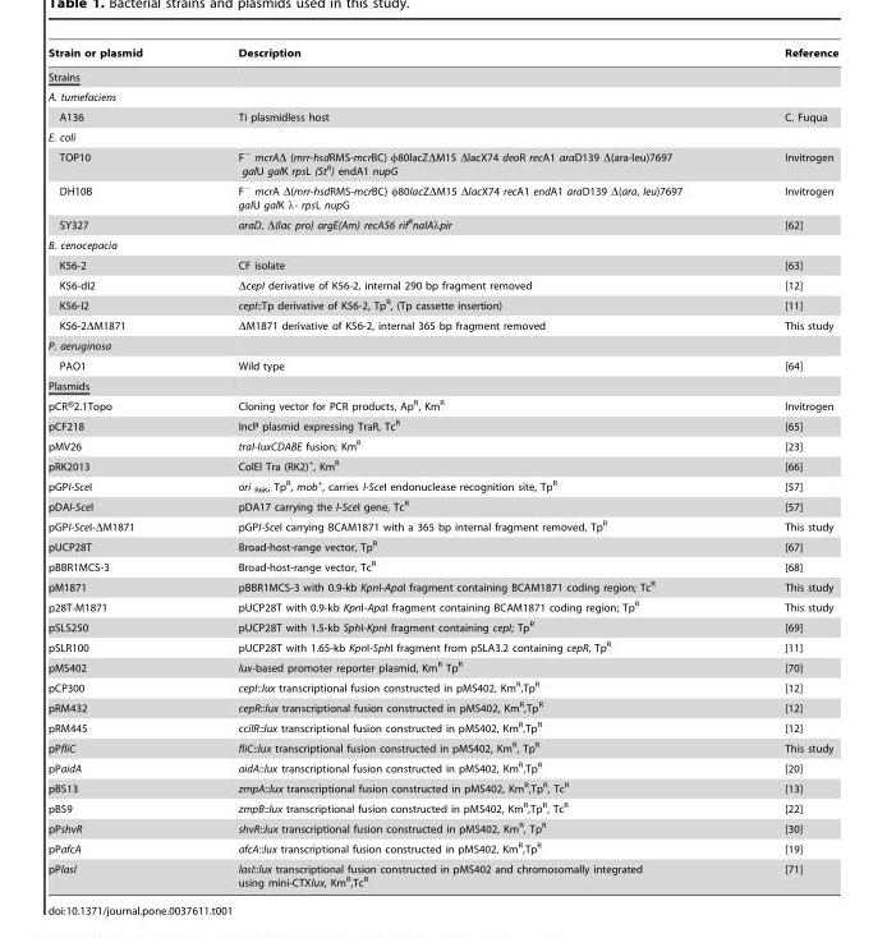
<table><thead><tr><td>Strain or plasmid</td><td>Description</td><td>Reference</td></tr></thead><tbody><tr><td colspan="3">Strains</td></tr><tr><td colspan="3">A. tumefaciens</td></tr><tr><td>A136</td><td>Ti plasmidless host</td><td>C. Fuqua</td></tr><tr><td colspan="3">E. coli</td></tr><tr><td>TOP10</td><td>F<sup>−</sup> mcrAΔ (mrr-hsdRMS-mcrBC) φ80lacZΔM15 ΔlacX74 deoR recA1 araD139 Δ(ara-leu)7697 galU galK rpsL (St<sup>R</sup>) endA1 nupG</td><td>Invitrogen</td></tr><tr><td>DH10B</td><td>F<sup>−</sup> mcrA Δ(mrr-hsdRMS-mcrBC) φ80lacZΔM15 ΔlacX74 recA1 endA1 araD139 Δ(ara, leu)7697 galU galK λ- rpsL nupG</td><td>Invitrogen</td></tr><tr><td>SY327</td><td>araD, Δ(lac pro) argE(Am) recA56 rif<sup>R</sup>nalAλpir</td><td>[62]</td></tr><tr><td colspan="3">B. cenocepacia</td></tr><tr><td>K56-2</td><td>CF isolate</td><td>[63]</td></tr><tr><td>K56-dI2</td><td>ΔcepI derivative of K56-2, internal 290 bp fragment removed</td><td>[12]</td></tr><tr><td>K56-I2</td><td>cepI::Tp derivative of K56-2, Tp<sup>R</sup>, (Tp cassette insertion)</td><td>[11]</td></tr><tr><td>K56-2ΔM1871</td><td>ΔM1871 derivative of K56-2, internal 365 bp fragment removed</td><td>This study</td></tr><tr><td colspan="3">P. aeruginosa</td></tr><tr><td>PAO1</td><td>Wild type</td><td>[64]</td></tr><tr><td colspan="3">Plasmids</td></tr><tr><td>pCR®2.1Topo</td><td>Cloning vector for PCR products, Ap<sup>R</sup>, Km<sup>R</sup></td><td>Invitrogen</td></tr><tr><td>pCF218</td><td>IncP plasmid expressing TraR, Tc<sup>R</sup></td><td>[65]</td></tr><tr><td>pMV26</td><td>traI-luxCDABE fusion; Km<sup>R</sup></td><td>[23]</td></tr><tr><td>pRK2013</td><td>ColEl Tra (RK2)<sup>+</sup>, Km<sup>R</sup></td><td>[66]</td></tr><tr><td>pGPI-SceI</td><td>ori <sub>R6K</sub>, Tp<sup>R</sup>, mob<sup>+</sup>, carries I-SceI endonuclease recognition site, Tp<sup>R</sup></td><td>[57]</td></tr><tr><td>pDAI-SceI</td><td>pDA17 carrying the I-SceI gene, Tc<sup>R</sup></td><td>[57]</td></tr><tr><td>pGPI-SceI-ΔM1871</td><td>pGPI-SceI carrying BCAM1871 with a 365 bp internal fragment removed, Tp<sup>R</sup></td><td>This study</td></tr><tr><td>pUCP28T</td><td>Broad-host-range vector, Tp<sup>R</sup></td><td>[67]</td></tr><tr><td>pBBR1MCS-3</td><td>Broad-host-range vector, Tc<sup>R</sup></td><td>[68]</td></tr><tr><td>pM1871</td><td>pBBR1MCS-3 with 0.9-kb KpnI-ApaI fragment containing BCAM1871 coding region; Tc<sup>R</sup></td><td>This study</td></tr><tr><td>p28T-M1871</td><td>pUCP28T with 0.9-kb KpnI-ApaI fragment containing BCAM1871 coding region; Tp<sup>R</sup></td><td>This study</td></tr><tr><td>pSLS250</td><td>pUCP28T with 1.5-kb SphI-KpnI fragment containing cepI; Tp<sup>R</sup></td><td>[69]</td></tr><tr><td>pSLR100</td><td>pUCP28T with 1.65-kb KpnI-SphI fragment from pSLA3.2 containing cepR, Tp<sup>R</sup></td><td>[11]</td></tr><tr><td>pMS402</td><td>lux-based promoter reporter plasmid, Km<sup>R</sup> Tp<sup>R</sup></td><td>[70]</td></tr><tr><td>pCP300</td><td>cepI::lux transcriptional fusion constructed in pMS402, Km<sup>R</sup>,Tp<sup>R</sup></td><td>[12]</td></tr><tr><td>pRM432</td><td>cepR::lux transcriptional fusion constructed in pMS402, Km<sup>R</sup>,Tp<sup>R</sup></td><td>[12]</td></tr><tr><td>pRM445</td><td>cciIR::lux transcriptional fusion constructed in pMS402, Km<sup>R</sup>,Tp<sup>R</sup></td><td>[12]</td></tr><tr><td>pPfliC</td><td>fliC::lux transcriptional fusion constructed in pMS402, Km<sup>R</sup>, Tp<sup>R</sup></td><td>This study</td></tr><tr><td>pPaidA</td><td>aidA::lux transcriptional fusion constructed in pMS402, Km<sup>R</sup>,Tp<sup>R</sup></td><td>[20]</td></tr><tr><td>pBS13</td><td>zmpA::lux transcriptional fusion constructed in pMS402, Km<sup>R</sup>,Tp<sup>R</sup>, Tc<sup>R</sup></td><td>[13]</td></tr><tr><td>pBS9</td><td>zmpB::lux transcriptional fusion constructed in pMS402, Km<sup>R</sup>,Tp<sup>R</sup>, Tc<sup>R</sup></td><td>[22]</td></tr><tr><td>pPshvR</td><td>shvR::lux transcriptional fusion constructed in pMS402, Km<sup>R</sup>, Tp<sup>R</sup></td><td>[30]</td></tr><tr><td>pPafcA</td><td>afcA::lux transcriptional fusion constructed in pMS402, Km<sup>R</sup>,Tp<sup>R</sup></td><td>[19]</td></tr><tr><td>pPlasI</td><td>lasI::lux transcriptional fusion constructed in pMS402 and chromosomally integrated using mini-CTXlux, Km<sup>R</sup>,Tc<sup>R</sup></td><td>[71]</td></tr></tbody></table>